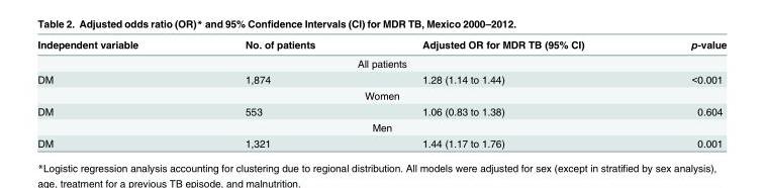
<table><thead><tr><td>Independent variable</td><td>No. of patients</td><td>Adjusted OR for MDR TB (95% CI)</td><td>p-value</td></tr></thead><tbody><tr><td colspan="4">All patients</td></tr><tr><td>DM</td><td>1,874</td><td>1.28 (1.14 to 1.44)</td><td>&lt;0.001</td></tr><tr><td colspan="4">Women</td></tr><tr><td>DM</td><td>553</td><td>1.06 (0.83 to 1.38)</td><td>0.604</td></tr><tr><td colspan="4">Men</td></tr><tr><td>DM</td><td>1,321</td><td>1.44 (1.17 to 1.76)</td><td>0.001</td></tr></tbody></table>